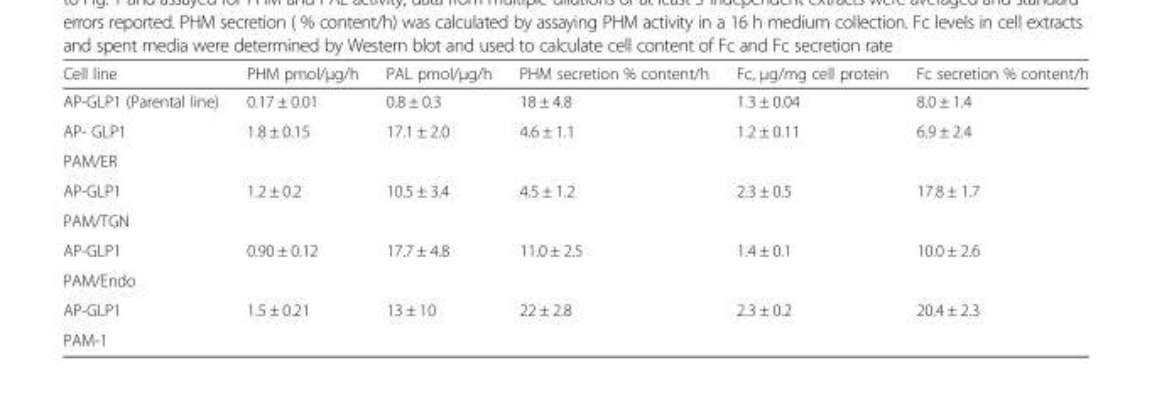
<table><thead><tr><td>Cell line</td><td>PHM pmol/μg/h</td><td>PAL pmol/μg/h</td><td>PHM secretion % content/h</td><td>Fc, μg/mg cell protein</td><td>Fc secretion % content/h</td></tr></thead><tbody><tr><td>AP-GLP1 (Parental line)</td><td>0.17 ± 0.01</td><td>0.8 ± 0.3</td><td>18 ± 4.8</td><td>1.3 ± 0.04</td><td>8.0 ± 1.4</td></tr><tr><td>AP- GLP1</td><td rowspan="2">1.8 ± 0.15</td><td rowspan="2">17.1 ± 2.0</td><td rowspan="2">4.6 ± 1.1</td><td rowspan="2">1.2 ± 0.11</td><td rowspan="2">6.9 ± 2.4</td></tr><tr><td>PAM/ER</td></tr><tr><td>AP-GLP1</td><td rowspan="2">1.2 ± 0.2</td><td rowspan="2">10.5 ± 3.4</td><td rowspan="2">4.5 ± 1.2</td><td rowspan="2">2.3 ± 0.5</td><td rowspan="2">17.8 ± 1.7</td></tr><tr><td>PAM/TGN</td></tr><tr><td>AP-GLP1</td><td rowspan="2">0.90 ± 0.12</td><td rowspan="2">17.7 ± 4.8</td><td rowspan="2">11.0 ± 2.5</td><td rowspan="2">1.4 ± 0.1</td><td rowspan="2">10.0 ± 2.6</td></tr><tr><td>PAM/Endo</td></tr><tr><td>AP-GLP1</td><td rowspan="2">1.5 ± 0.21</td><td rowspan="2">13 ± 10</td><td rowspan="2">22 ± 2.8</td><td rowspan="2">2.3 ± 0.2</td><td rowspan="2">20.4 ± 2.3</td></tr><tr><td>PAM-1</td></tr></tbody></table>